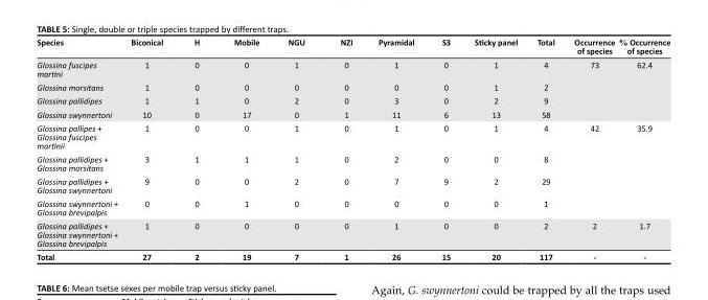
<table><thead><tr><td>Species</td><td>Biconical</td><td>H</td><td>Mobile</td><td>NGU</td><td>NZI</td><td>Pyramidal</td><td>S3</td><td>Sticky panel</td><td>Total</td><td>Occurrence of species</td><td>% Occurrence of species</td></tr></thead><tbody><tr><td>Glossina fuscipes martini</td><td>1</td><td>0</td><td>0</td><td>1</td><td>0</td><td>1</td><td>0</td><td>1</td><td>4</td><td>73</td><td>62.4</td></tr><tr><td>Glossina morsitans</td><td>1</td><td>0</td><td>0</td><td>0</td><td>0</td><td>0</td><td>0</td><td>1</td><td>2</td><td></td><td></td></tr><tr><td>Glossina pallidipes</td><td>1</td><td>1</td><td>0</td><td>2</td><td>0</td><td>3</td><td>0</td><td>2</td><td>9</td><td></td><td></td></tr><tr><td>Glossina swynnertoni</td><td>10</td><td>0</td><td>17</td><td>0</td><td>1</td><td>11</td><td>6</td><td>13</td><td>58</td><td></td><td></td></tr><tr><td>Glossina pallipes + Glossina fuscipes martinii</td><td>1</td><td>0</td><td>0</td><td>1</td><td>0</td><td>1</td><td>0</td><td>1</td><td>4</td><td>42</td><td>35.9</td></tr><tr><td>Glossina pallidipes + Glossina morsitans</td><td>3</td><td>1</td><td>1</td><td>1</td><td>0</td><td>2</td><td>0</td><td>0</td><td>8</td><td></td><td></td></tr><tr><td>Glossina pallidipes + Glossina swynnertoni</td><td>9</td><td>0</td><td>0</td><td>2</td><td>0</td><td>7</td><td>9</td><td>2</td><td>29</td><td></td><td></td></tr><tr><td>Glossina swynnertoni + Glossina brevipalpis</td><td>0</td><td>0</td><td>1</td><td>0</td><td>0</td><td>0</td><td>0</td><td>0</td><td>1</td><td></td><td></td></tr><tr><td>Glossina pallidipes + Glossina swynnertoni + Glossina brevipalpis</td><td>1</td><td>0</td><td>0</td><td>0</td><td>0</td><td>1</td><td>0</td><td>0</td><td>2</td><td>2</td><td>1.7</td></tr><tr><td>Total</td><td>27</td><td>2</td><td>19</td><td>7</td><td>1</td><td>26</td><td>15</td><td>20</td><td>117</td><td>-</td><td>-</td></tr></tbody></table>